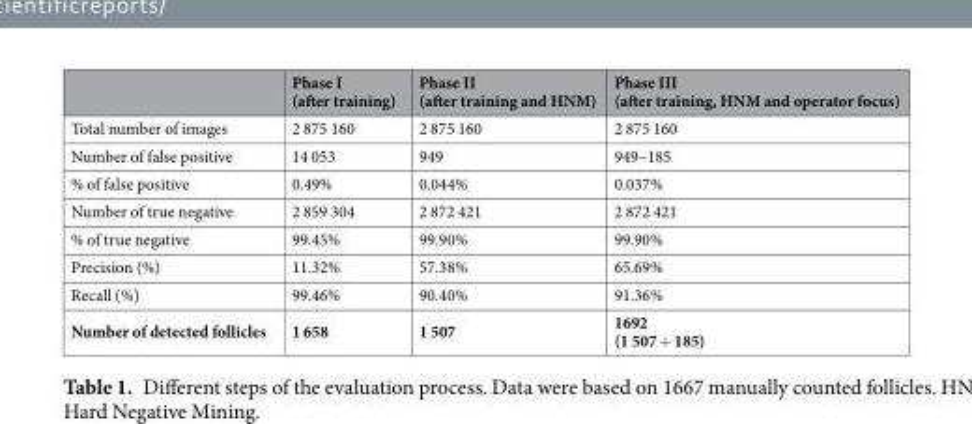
<table><thead><tr><td></td><td>Phase I (after training)</td><td>Phase II (after training and HNM)</td><td>Phase III (after training, HNM and operator focus)</td></tr></thead><tbody><tr><td>Total number of images</td><td>2 875 160</td><td>2 875 160</td><td>2 875 160</td></tr><tr><td>Number of false positive</td><td>14 053</td><td>949</td><td>949–185</td></tr><tr><td>% of false positive</td><td>0.49%</td><td>0.044%</td><td>0.037%</td></tr><tr><td>Number of true negative</td><td>2 859 304</td><td>2 872 421</td><td>2 872 421</td></tr><tr><td>% of true negative</td><td>99.45%</td><td>99.90%</td><td>99.90%</td></tr><tr><td>Precision (%)</td><td>11.32%</td><td>57.38%</td><td>65.69%</td></tr><tr><td>Recall (%)</td><td>99.46%</td><td>90.40%</td><td>91.36%</td></tr><tr><td>Number of detected follicles</td><td>1 658</td><td>1 507</td><td>1692 (1 507 + 185)</td></tr></tbody></table>